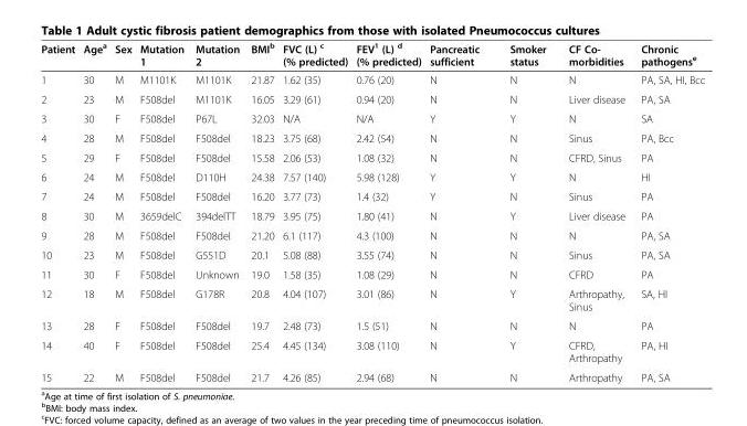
<table><thead><tr><td>Patient</td><td>Age<sup>a</sup></td><td>Sex</td><td>Mutation 1</td><td>Mutation 2</td><td>BMI<sup>b</sup></td><td>FVC (L) <sup>c</sup> (% predicted)</td><td>FEV<sup>1</sup> (L) <sup>d</sup> (% predicted)</td><td>Pancreatic sufficient</td><td>Smoker status</td><td>CF Co- morbidities</td><td>Chronic pathogens<sup>e</sup></td></tr></thead><tbody><tr><td>1</td><td>30</td><td>M</td><td>M1101K</td><td>M1101K</td><td>21.87</td><td>1.62 (35)</td><td>0.76 (20)</td><td>N</td><td>N</td><td>N</td><td>PA, SA, HI, Bcc</td></tr><tr><td>2</td><td>23</td><td>M</td><td>F508del</td><td>M1101K</td><td>16.05</td><td>3.29 (61)</td><td>0.94 (20)</td><td>N</td><td>N</td><td>Liver disease</td><td>PA, SA</td></tr><tr><td>3</td><td>30</td><td>F</td><td>F508del</td><td>P67L</td><td>32.03</td><td>N/A</td><td>N/A</td><td>Y</td><td>Y</td><td>N</td><td>SA</td></tr><tr><td>4</td><td>28</td><td>M</td><td>F508del</td><td>F508del</td><td>18.23</td><td>3.75 (68)</td><td>2.42 (54)</td><td>N</td><td>N</td><td>Sinus</td><td>PA, Bcc</td></tr><tr><td>5</td><td>29</td><td>F</td><td>F508del</td><td>F508del</td><td>15.58</td><td>2.06 (53)</td><td>1.08 (32)</td><td>N</td><td>N</td><td>CFRD, Sinus</td><td>PA</td></tr><tr><td>6</td><td>24</td><td>M</td><td>F508del</td><td>D110H</td><td>24.38</td><td>7.57 (140)</td><td>5.98 (128)</td><td>Y</td><td>Y</td><td>N</td><td>HI</td></tr><tr><td>7</td><td>24</td><td>M</td><td>F508del</td><td>F508del</td><td>16.20</td><td>3.77 (73)</td><td>1.4 (32)</td><td>Y</td><td>N</td><td>Sinus</td><td>PA</td></tr><tr><td>8</td><td>30</td><td>M</td><td>3659delC</td><td>394delTT</td><td>18.79</td><td>3.95 (75)</td><td>1.80 (41)</td><td>N</td><td>Y</td><td>Liver disease</td><td>PA</td></tr><tr><td>9</td><td>28</td><td>M</td><td>F508del</td><td>F508del</td><td>21.20</td><td>6.1 (117)</td><td>4.3 (100)</td><td>N</td><td>N</td><td>N</td><td>PA, SA</td></tr><tr><td>10</td><td>23</td><td>M</td><td>F508del</td><td>G551D</td><td>20.1</td><td>5.08 (88)</td><td>3.55 (74)</td><td>N</td><td>N</td><td>Sinus</td><td>PA, SA</td></tr><tr><td>11</td><td>30</td><td>F</td><td>F508del</td><td>Unknown</td><td>19.0</td><td>1.58 (35)</td><td>1.08 (29)</td><td>N</td><td>N</td><td>CFRD</td><td>PA</td></tr><tr><td>12</td><td>18</td><td>M</td><td>F508del</td><td>G178R</td><td>20.8</td><td>4.04 (107)</td><td>3.01 (86)</td><td>N</td><td>Y</td><td>Arthropathy, Sinus</td><td>SA, HI</td></tr><tr><td>13</td><td>28</td><td>F</td><td>F508del</td><td>F508del</td><td>19.7</td><td>2.48 (73)</td><td>1.5 (51)</td><td>N</td><td>N</td><td>N</td><td>PA</td></tr><tr><td>14</td><td>40</td><td>F</td><td>F508del</td><td>F508del</td><td>25.4</td><td>4.45 (134)</td><td>3.08 (110)</td><td>N</td><td>Y</td><td>CFRD, Arthropathy</td><td>PA, HI</td></tr><tr><td>15</td><td>22</td><td>M</td><td>F508del</td><td>F508del</td><td>21.7</td><td>4.26 (85)</td><td>2.94 (68)</td><td>N</td><td>N</td><td>Arthropathy</td><td>PA, SA</td></tr></tbody></table>